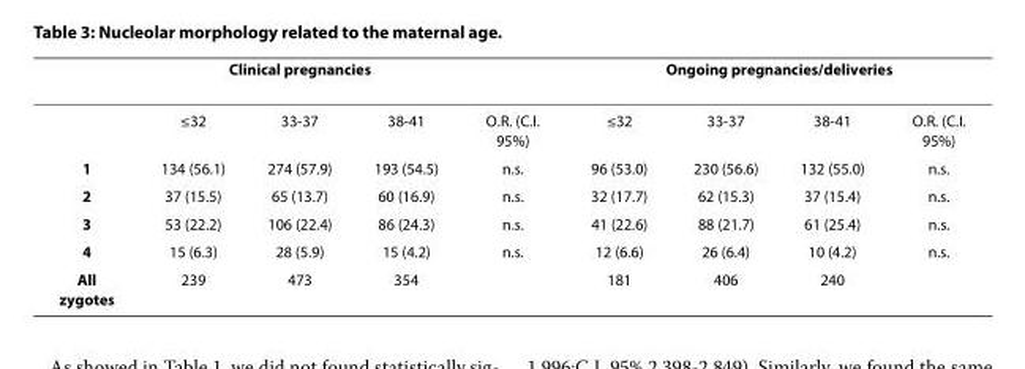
<table><thead><tr><td colspan="5">Clinical pregnancies</td><td colspan="4">Ongoing pregnancies/deliveries</td></tr><tr><td></td><td>≤32</td><td>33-37</td><td>38-41</td><td>O.R. (C.I. 95%)</td><td>≤32</td><td>33-37</td><td>38-41</td><td>O.R. (C.I. 95%)</td></tr></thead><tbody><tr><td>1</td><td>134 (56.1)</td><td>274 (57.9)</td><td>193 (54.5)</td><td>n.s.</td><td>96 (53.0)</td><td>230 (56.6)</td><td>132 (55.0)</td><td>n.s.</td></tr><tr><td>2</td><td>37 (15.5)</td><td>65 (13.7)</td><td>60 (16.9)</td><td>n.s.</td><td>32 (17.7)</td><td>62 (15.3)</td><td>37 (15.4)</td><td>n.s.</td></tr><tr><td>3</td><td>53 (22.2)</td><td>106 (22.4)</td><td>86 (24.3)</td><td>n.s.</td><td>41 (22.6)</td><td>88 (21.7)</td><td>61 (25.4)</td><td>n.s.</td></tr><tr><td>4</td><td>15 (6.3)</td><td>28 (5.9)</td><td>15 (4.2)</td><td>n.s.</td><td>12 (6.6)</td><td>26 (6.4)</td><td>10 (4.2)</td><td>n.s.</td></tr><tr><td>All zygotes</td><td>239</td><td>473</td><td>354</td><td></td><td>181</td><td>406</td><td>240</td><td></td></tr></tbody></table>